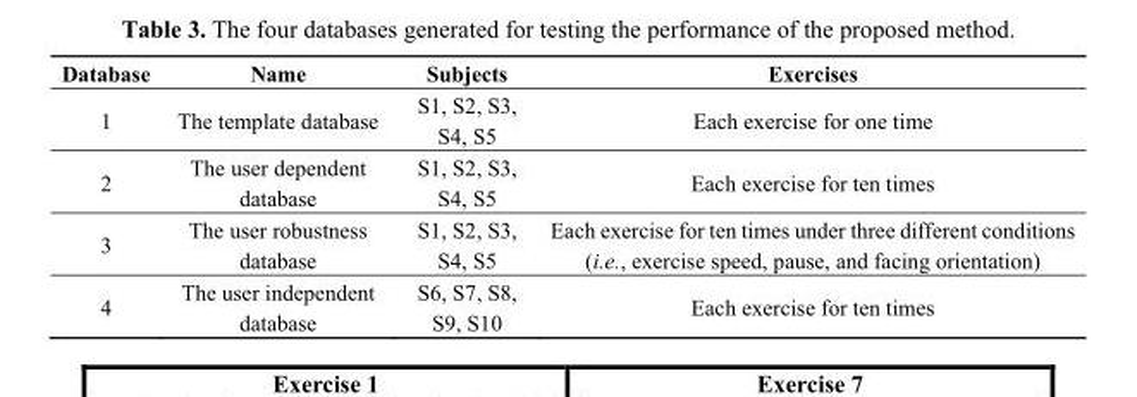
<table><thead><tr><td>Database</td><td>Name</td><td>Subjects</td><td>Exercises</td></tr></thead><tbody><tr><td>1</td><td>The template database</td><td>S1, S2, S3, S4, S5</td><td>Each exercise for one time</td></tr><tr><td>2</td><td>The user dependent database</td><td>S1, S2, S3, S4, S5</td><td>Each exercise for ten times</td></tr><tr><td>3</td><td>The user robustness database</td><td>S1, S2, S3, S4, S5</td><td>Each exercise for ten times under three different conditions (i.e., exercise speed, pause, and facing orientation)</td></tr><tr><td>4</td><td>The user independent database</td><td>S6, S7, S8, S9, S10</td><td>Each exercise for ten times</td></tr></tbody></table>